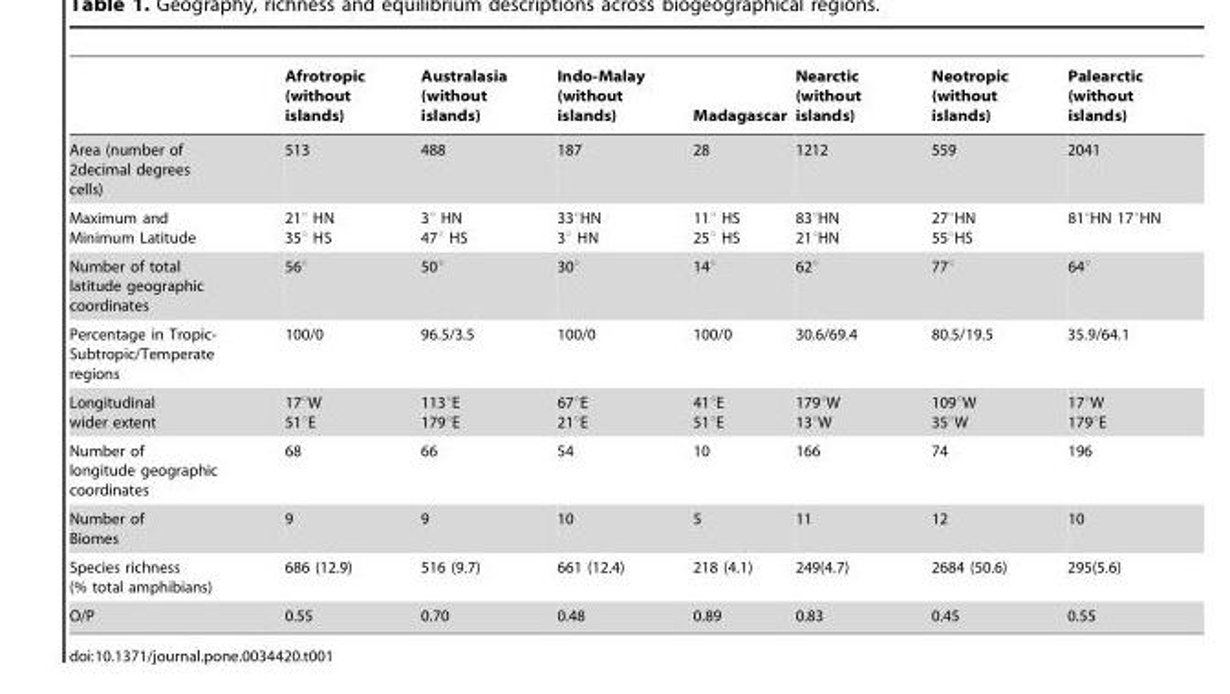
<table><thead><tr><td></td><td>Afrotropic (without islands)</td><td>Australasia (without islands)</td><td>Indo-Malay (without islands)</td><td>Madagascar</td><td>Nearctic (without islands)</td><td>Neotropic (without islands)</td><td>Palearctic (without islands)</td></tr></thead><tbody><tr><td>Area (number of 2decimal degrees cells)</td><td>513</td><td>488</td><td>187</td><td>28</td><td>1212</td><td>559</td><td>2041</td></tr><tr><td>Maximum and Minimum Latitude</td><td>21° HN 35° HS</td><td>3° HN 47° HS</td><td>33°HN 3° HN</td><td>11° HS 25° HS</td><td>83°HN 21°HN</td><td>27°HN 55°HS</td><td>81°HN 17°HN</td></tr><tr><td>Number of total latitude geographic coordinates</td><td>56°</td><td>50°</td><td>30°</td><td>14°</td><td>62°</td><td>77°</td><td>64°</td></tr><tr><td>Percentage in Tropic- Subtropic/Temperate regions</td><td>100/0</td><td>96.5/3.5</td><td>100/0</td><td>100/0</td><td>30.6/69.4</td><td>80.5/19.5</td><td>35.9/64.1</td></tr><tr><td>Longitudinal wider extent</td><td>17°W 51°E</td><td>113°E 179°E</td><td>67°E 21°E</td><td>41°E 51°E</td><td>179°W 13°W</td><td>109°W 35°W</td><td>17°W 179°E</td></tr><tr><td>Number of longitude geographic coordinates</td><td>68</td><td>66</td><td>54</td><td>10</td><td>166</td><td>74</td><td>196</td></tr><tr><td>Number of Biomes</td><td>9</td><td>9</td><td>10</td><td>5</td><td>11</td><td>12</td><td>10</td></tr><tr><td>Species richness (% total amphibians)</td><td>686 (12.9)</td><td>516 (9.7)</td><td>661 (12.4)</td><td>218 (4.1)</td><td>249(4.7)</td><td>2684 (50.6)</td><td>295(5.6)</td></tr><tr><td>O/P</td><td>0.55</td><td>0.70</td><td>0.48</td><td>0.89</td><td>0.83</td><td>0.45</td><td>0.55</td></tr></tbody></table>